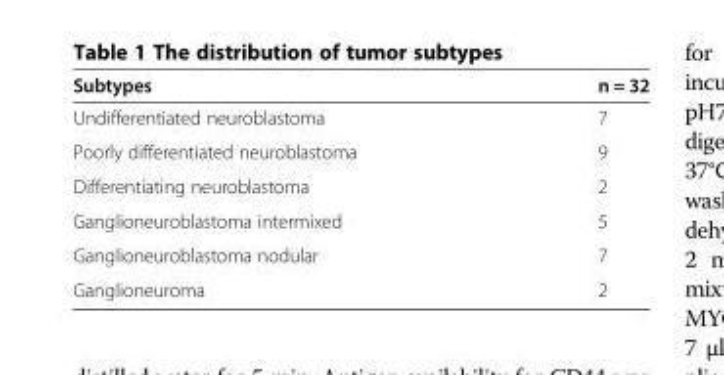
<table><thead><tr><td>Subtypes</td><td>n = 32</td></tr></thead><tbody><tr><td>Undifferentiated neuroblastoma</td><td>7</td></tr><tr><td>Poorly differentiated neuroblastoma</td><td>9</td></tr><tr><td>Differentiating neuroblastoma</td><td>2</td></tr><tr><td>Ganglioneuroblastoma intermixed</td><td>5</td></tr><tr><td>Ganglioneuroblastoma nodular</td><td>7</td></tr><tr><td>Ganglioneuroma</td><td>2</td></tr></tbody></table>